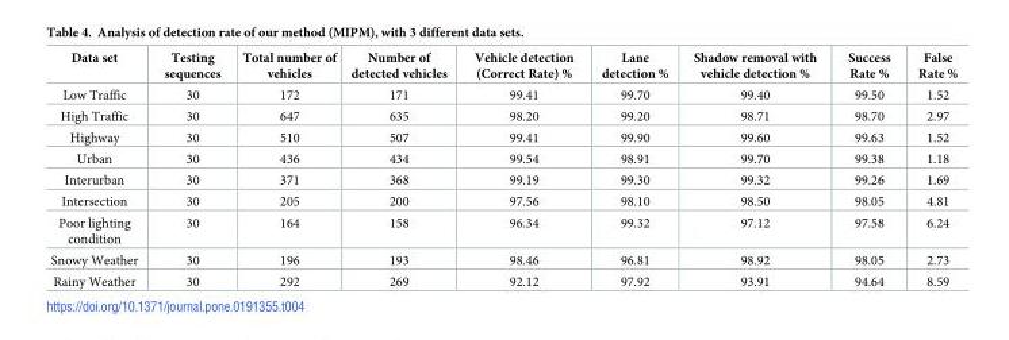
<table><thead><tr><td>Data set</td><td>Testing sequences</td><td>Total number of vehicles</td><td>Number of detected vehicles</td><td>Vehicle detection (Correct Rate) %</td><td>Lane detection %</td><td>Shadow removal with vehicle detection %</td><td>Success Rate %</td><td>False Rate %</td></tr></thead><tbody><tr><td>Low Traffic</td><td>30</td><td>172</td><td>171</td><td>99.41</td><td>99.70</td><td>99.40</td><td>99.50</td><td>1.52</td></tr><tr><td>High Traffic</td><td>30</td><td>647</td><td>635</td><td>98.20</td><td>99.20</td><td>98.71</td><td>98.70</td><td>2.97</td></tr><tr><td>Highway</td><td>30</td><td>510</td><td>507</td><td>99.41</td><td>99.90</td><td>99.60</td><td>99.63</td><td>1.52</td></tr><tr><td>Urban</td><td>30</td><td>436</td><td>434</td><td>99.54</td><td>98.91</td><td>99.70</td><td>99.38</td><td>1.18</td></tr><tr><td>Interurban</td><td>30</td><td>371</td><td>368</td><td>99.19</td><td>99.30</td><td>99.32</td><td>99.26</td><td>1.69</td></tr><tr><td>Intersection</td><td>30</td><td>205</td><td>200</td><td>97.56</td><td>98.10</td><td>98.50</td><td>98.05</td><td>4.81</td></tr><tr><td>Poor lighting condition</td><td>30</td><td>164</td><td>158</td><td>96.34</td><td>99.32</td><td>97.12</td><td>97.58</td><td>6.24</td></tr><tr><td>Snowy Weather</td><td>30</td><td>196</td><td>193</td><td>98.46</td><td>96.81</td><td>98.92</td><td>98.05</td><td>2.73</td></tr><tr><td>Rainy Weather</td><td>30</td><td>292</td><td>269</td><td>92.12</td><td>97.92</td><td>93.91</td><td>94.64</td><td>8.59</td></tr></tbody></table>